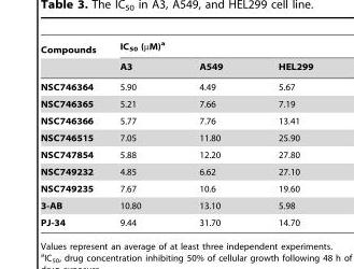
<table><thead><tr><td rowspan="2">Compounds</td><td colspan="3">IC<sub>50</sub> (µM)<sup>a</sup></td></tr><tr><td>A3</td><td>A549</td><td>HEL299</td></tr></thead><tbody><tr><td>NSC746364</td><td>5.90</td><td>4.49</td><td>5.67</td></tr><tr><td>NSC746365</td><td>5.21</td><td>7.66</td><td>7.19</td></tr><tr><td>NSC746366</td><td>5.77</td><td>7.76</td><td>13.41</td></tr><tr><td>NSC746515</td><td>7.05</td><td>11.80</td><td>25.90</td></tr><tr><td>NSC747854</td><td>5.88</td><td>12.20</td><td>27.80</td></tr><tr><td>NSC749232</td><td>4.85</td><td>6.62</td><td>27.10</td></tr><tr><td>NSC749235</td><td>7.67</td><td>10.6</td><td>19.60</td></tr><tr><td>3-AB</td><td>10.80</td><td>13.10</td><td>5.98</td></tr><tr><td>PJ-34</td><td>9.44</td><td>31.70</td><td>14.70</td></tr></tbody></table>